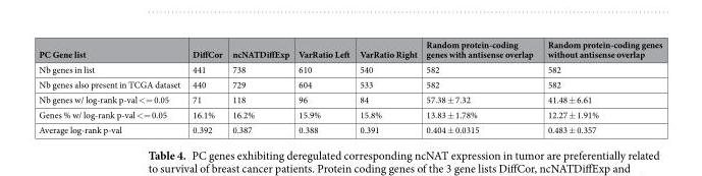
<table><thead><tr><td>PC Gene list</td><td>DiffCor</td><td>ncNATDiffExp</td><td>VarRatio Left</td><td>VarRatio Right</td><td>Random protein-coding genes with antisense overlap</td><td>Random protein-coding genes without antisense overlap</td></tr></thead><tbody><tr><td>Nb genes in list</td><td>441</td><td>738</td><td>610</td><td>540</td><td>582</td><td>582</td></tr><tr><td>Nb genes also present in TCGA dataset</td><td>440</td><td>729</td><td>604</td><td>533</td><td>582</td><td>582</td></tr><tr><td>Nb genes w/ log-rank p-val &lt;= 0.05</td><td>71</td><td>118</td><td>96</td><td>84</td><td>57.38 ± 7.32</td><td>41.48 ± 6.61</td></tr><tr><td>Genes % w/ log-rank p-val &lt;= 0.05</td><td>16.1%</td><td>16.2%</td><td>15.9%</td><td>15.8%</td><td>13.83 ± 1.78%</td><td>12.27 ± 1.91%</td></tr><tr><td>Average log-rank p-val</td><td>0.392</td><td>0.387</td><td>0.388</td><td>0.391</td><td>0.404 ± 0.0315</td><td>0.483 ± 0.357</td></tr></tbody></table>